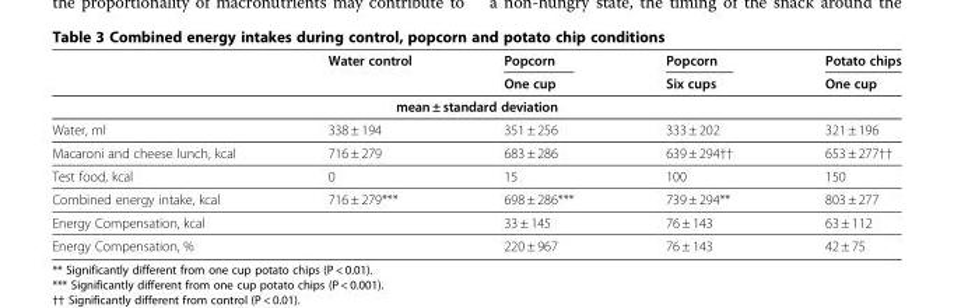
<table><thead><tr><td rowspan="2"></td><td rowspan="2">Water control</td><td rowspan="2">Popcorn One cup</td><td rowspan="2">Popcorn Six cups</td><td rowspan="2">Potato chips One cup</td></tr><tr></tr></thead><tbody><tr><td colspan="5">mean ± standard deviation</td></tr><tr><td>Water, ml</td><td>338 ± 194</td><td>351 ± 256</td><td>333 ± 202</td><td>321 ± 196</td></tr><tr><td>Macaroni and cheese lunch, kcal</td><td>716 ± 279</td><td>683 ± 286</td><td>639 ± 294††</td><td>653 ± 277††</td></tr><tr><td>Test food, kcal</td><td>0</td><td>15</td><td>100</td><td>150</td></tr><tr><td>Combined energy intake, kcal</td><td>716 ± 279***</td><td>698 ± 286***</td><td>739 ± 294**</td><td>803 ± 277</td></tr><tr><td>Energy Compensation, kcal</td><td></td><td>33 ± 145</td><td>76 ± 143</td><td>63 ± 112</td></tr><tr><td>Energy Compensation, %</td><td></td><td>220 ± 967</td><td>76 ± 143</td><td>42 ± 75</td></tr></tbody></table>